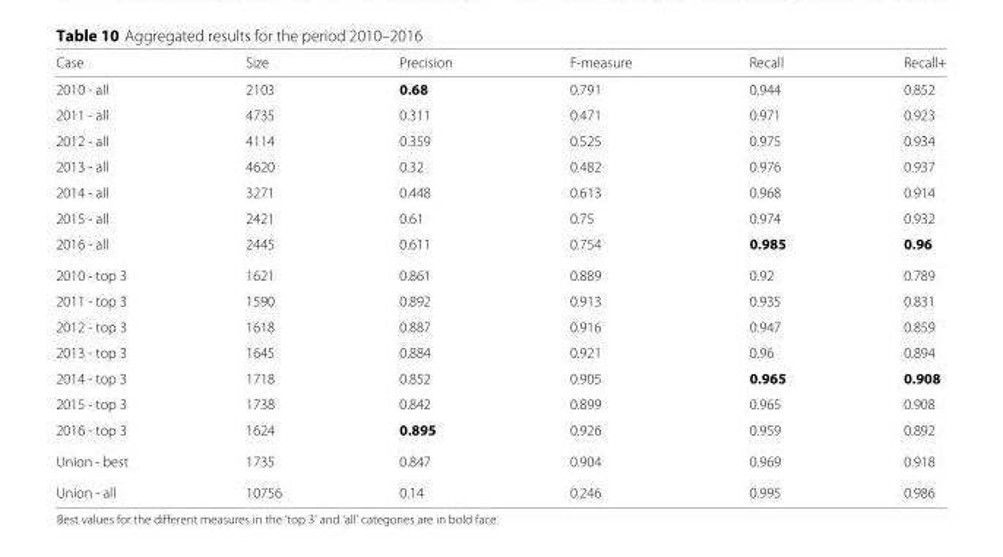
<table><thead><tr><td>Case</td><td>Size</td><td>Precision</td><td>F-measure</td><td>Recall</td><td>Recall+</td></tr></thead><tbody><tr><td>2010 - all</td><td>2103</td><td>0.68</td><td>0.791</td><td>0.944</td><td>0.852</td></tr><tr><td>2011 - all</td><td>4735</td><td>0.311</td><td>0.471</td><td>0.971</td><td>0.923</td></tr><tr><td>2012 - all</td><td>4114</td><td>0.359</td><td>0.525</td><td>0.975</td><td>0.934</td></tr><tr><td>2013 - all</td><td>4620</td><td>0.32</td><td>0.482</td><td>0.976</td><td>0.937</td></tr><tr><td>2014 - all</td><td>3271</td><td>0.448</td><td>0.613</td><td>0.968</td><td>0.914</td></tr><tr><td>2015 - all</td><td>2421</td><td>0.61</td><td>0.75</td><td>0.974</td><td>0.932</td></tr><tr><td>2016 - all</td><td>2445</td><td>0.611</td><td>0.754</td><td>0.985</td><td>0.96</td></tr><tr><td>2010 - top 3</td><td>1621</td><td>0.861</td><td>0.889</td><td>0.92</td><td>0.789</td></tr><tr><td>2011 - top 3</td><td>1590</td><td>0.892</td><td>0.913</td><td>0.935</td><td>0.831</td></tr><tr><td>2012 - top 3</td><td>1618</td><td>0.887</td><td>0.916</td><td>0.947</td><td>0.859</td></tr><tr><td>2013 - top 3</td><td>1645</td><td>0.884</td><td>0.921</td><td>0.96</td><td>0.894</td></tr><tr><td>2014 - top 3</td><td>1718</td><td>0.852</td><td>0.905</td><td>0.965</td><td>0.908</td></tr><tr><td>2015 - top 3</td><td>1738</td><td>0.842</td><td>0.899</td><td>0.965</td><td>0.908</td></tr><tr><td>2016 - top 3</td><td>1624</td><td>0.895</td><td>0.926</td><td>0.959</td><td>0.892</td></tr><tr><td>Union - best</td><td>1735</td><td>0.847</td><td>0.904</td><td>0.969</td><td>0.918</td></tr><tr><td>Union - all</td><td>10756</td><td>0.14</td><td>0.246</td><td>0.995</td><td>0.986</td></tr></tbody></table>